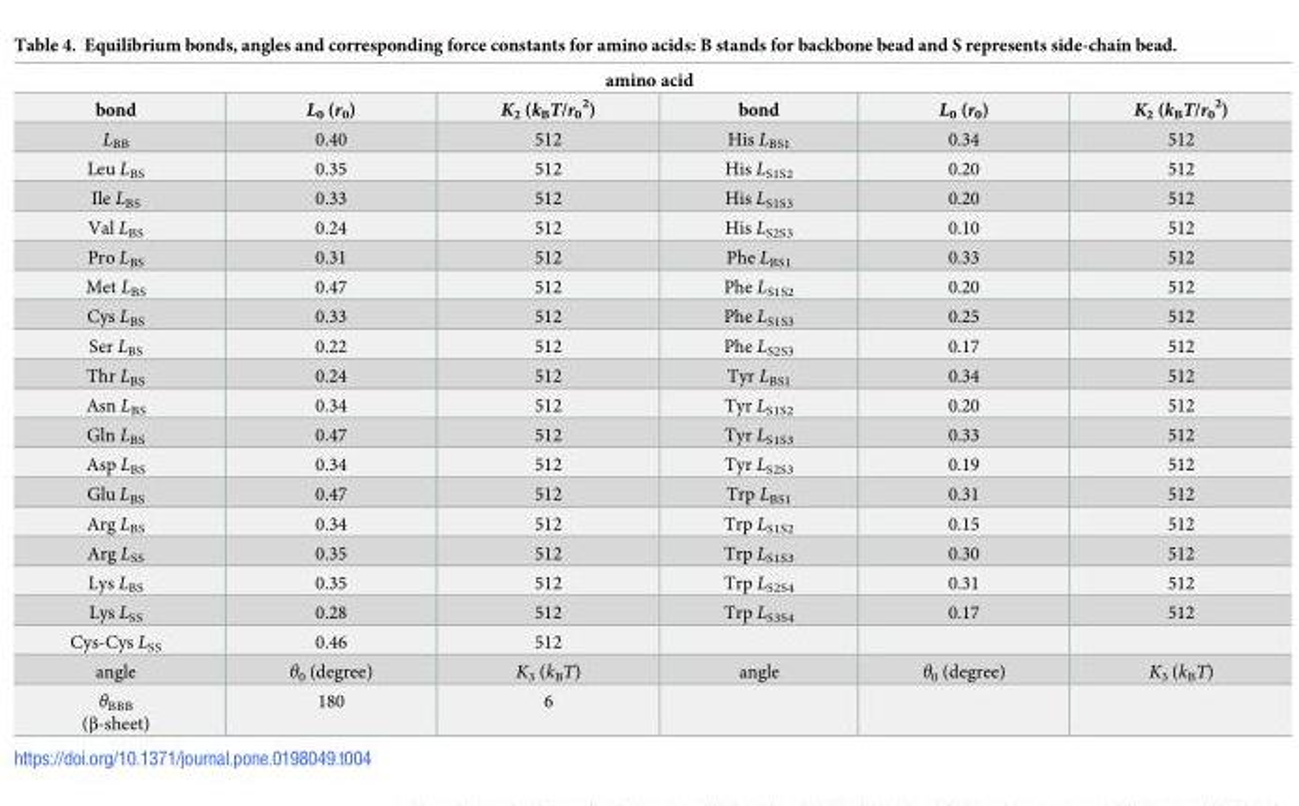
<table><thead><tr><td colspan="6">amino acid</td></tr><tr><td>bond</td><td>L<sub>0</sub> (r<sub>0</sub>)</td><td>K<sub>2</sub> (k<sub>B</sub>T/r<sub>0</sub> <sup>2</sup>)</td><td>bond</td><td>L<sub>0</sub> (r<sub>0</sub>)</td><td>K<sub>2</sub> (k<sub>B</sub>T/r<sub>0</sub> <sup>2</sup>)</td></tr></thead><tbody><tr><td>L<sub>BB</sub></td><td>0.40</td><td>512</td><td>His L<sub>BS1</sub></td><td>0.34</td><td>512</td></tr><tr><td>Leu L<sub>BS</sub></td><td>0.35</td><td>512</td><td>His L<sub>S1S2</sub></td><td>0.20</td><td>512</td></tr><tr><td>Ile L<sub>BS</sub></td><td>0.33</td><td>512</td><td>His L<sub>S1S3</sub></td><td>0.20</td><td>512</td></tr><tr><td>Val L<sub>BS</sub></td><td>0.24</td><td>512</td><td>His L<sub>S2S3</sub></td><td>0.10</td><td>512</td></tr><tr><td>Pro L<sub>BS</sub></td><td>0.31</td><td>512</td><td>Phe L<sub>BS1</sub></td><td>0.33</td><td>512</td></tr><tr><td>Met L<sub>BS</sub></td><td>0.47</td><td>512</td><td>Phe L<sub>S1S2</sub></td><td>0.20</td><td>512</td></tr><tr><td>Cys L<sub>BS</sub></td><td>0.33</td><td>512</td><td>Phe L<sub>S1S3</sub></td><td>0.25</td><td>512</td></tr><tr><td>Ser L<sub>BS</sub></td><td>0.22</td><td>512</td><td>Phe L<sub>S2S3</sub></td><td>0.17</td><td>512</td></tr><tr><td>Thr L<sub>BS</sub></td><td>0.24</td><td>512</td><td>Tyr L<sub>BS1</sub></td><td>0.34</td><td>512</td></tr><tr><td>Asn L<sub>BS</sub></td><td>0.34</td><td>512</td><td>Tyr L<sub>S1S2</sub></td><td>0.20</td><td>512</td></tr><tr><td>Gln L<sub>BS</sub></td><td>0.47</td><td>512</td><td>Tyr L<sub>S1S3</sub></td><td>0.33</td><td>512</td></tr><tr><td>Asp L<sub>BS</sub></td><td>0.34</td><td>512</td><td>Tyr L<sub>S2S3</sub></td><td>0.19</td><td>512</td></tr><tr><td>Glu L<sub>BS</sub></td><td>0.47</td><td>512</td><td>Trp L<sub>BS1</sub></td><td>0.31</td><td>512</td></tr><tr><td>Arg L<sub>BS</sub></td><td>0.34</td><td>512</td><td>Trp L<sub>S1S2</sub></td><td>0.15</td><td>512</td></tr><tr><td>Arg L<sub>SS</sub></td><td>0.35</td><td>512</td><td>Trp L<sub>S1S3</sub></td><td>0.30</td><td>512</td></tr><tr><td>Lys L<sub>BS</sub></td><td>0.35</td><td>512</td><td>Trp L<sub>S2S4</sub></td><td>0.31</td><td>512</td></tr><tr><td>Lys L<sub>SS</sub></td><td>0.28</td><td>512</td><td>Trp L<sub>S3S4</sub></td><td>0.17</td><td>512</td></tr><tr><td>Cys-Cys L<sub>SS</sub></td><td>0.46</td><td>512</td><td></td><td></td><td></td></tr><tr><td>angle</td><td>θ<sub>0</sub> (degree)</td><td>K<sub>3</sub> (k<sub>B</sub>T)</td><td>angle</td><td>θ<sub>0</sub> (degree)</td><td>K<sub>3</sub> (k<sub>B</sub>T)</td></tr><tr><td>θ<sub>BBB</sub> (β-sheet)</td><td>180</td><td>6</td><td></td><td></td><td></td></tr></tbody></table>